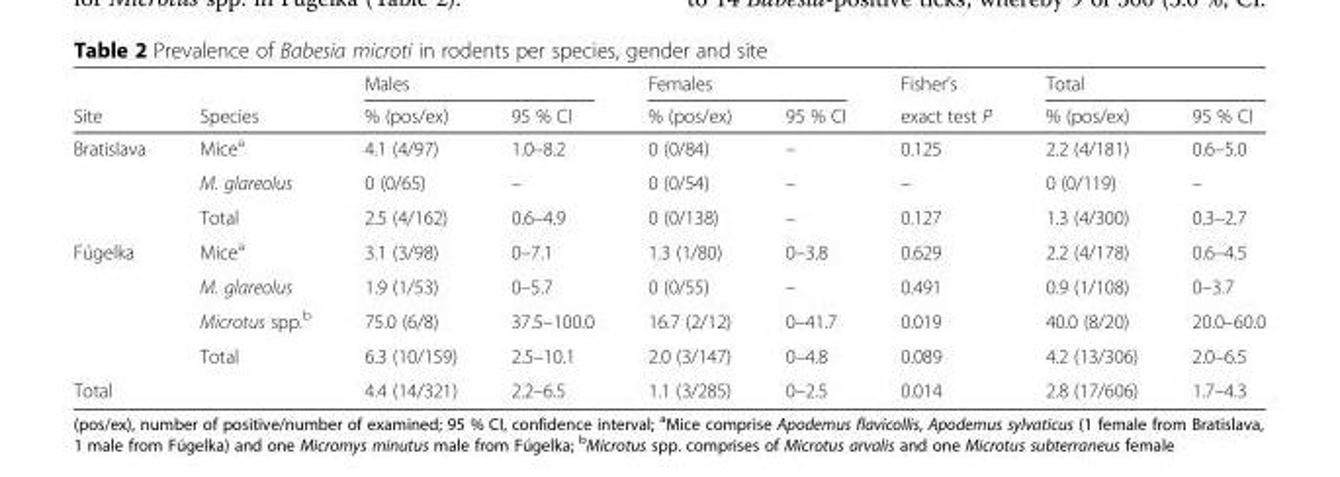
<table><thead><tr><td rowspan="2">Site</td><td rowspan="2">Species</td><td colspan="2">Males</td><td colspan="2">Females</td><td rowspan="2">Fisher’s exact test P</td><td colspan="2">Total</td></tr><tr><td>% (pos/ex)</td><td>95 % CI</td><td>% (pos/ex)</td><td>95 % CI</td><td>% (pos/ex)</td><td>95 % CI</td></tr></thead><tbody><tr><td rowspan="3">Bratislava</td><td>Mice<sup>a</sup></td><td>4.1 (4/97)</td><td>1.0–8.2</td><td>0 (0/84)</td><td>–</td><td>0.125</td><td>2.2 (4/181)</td><td>0.6–5.0</td></tr><tr><td>M. glareolus</td><td>0 (0/65)</td><td>–</td><td>0 (0/54)</td><td>–</td><td>–</td><td>0 (0/119)</td><td>–</td></tr><tr><td>Total</td><td>2.5 (4/162)</td><td>0.6–4.9</td><td>0 (0/138)</td><td>–</td><td>0.127</td><td>1.3 (4/300)</td><td>0.3–2.7</td></tr><tr><td rowspan="4">Fúgelka</td><td>Mice<sup>a</sup></td><td>3.1 (3/98)</td><td>0–7.1</td><td>1.3 (1/80)</td><td>0–3.8</td><td>0.629</td><td>2.2 (4/178)</td><td>0.6–4.5</td></tr><tr><td>M. glareolus</td><td>1.9 (1/53)</td><td>0–5.7</td><td>0 (0/55)</td><td>–</td><td>0.491</td><td>0.9 (1/108)</td><td>0–3.7</td></tr><tr><td>Microtus spp.<sup>b</sup></td><td>75.0 (6/8)</td><td>37.5–100.0</td><td>16.7 (2/12)</td><td>0–41.7</td><td>0.019</td><td>40.0 (8/20)</td><td>20.0–60.0</td></tr><tr><td>Total</td><td>6.3 (10/159)</td><td>2.5–10.1</td><td>2.0 (3/147)</td><td>0–4.8</td><td>0.089</td><td>4.2 (13/306)</td><td>2.0–6.5</td></tr><tr><td>Total</td><td></td><td>4.4 (14/321)</td><td>2.2–6.5</td><td>1.1 (3/285)</td><td>0–2.5</td><td>0.014</td><td>2.8 (17/606)</td><td>1.7–4.3</td></tr></tbody></table>